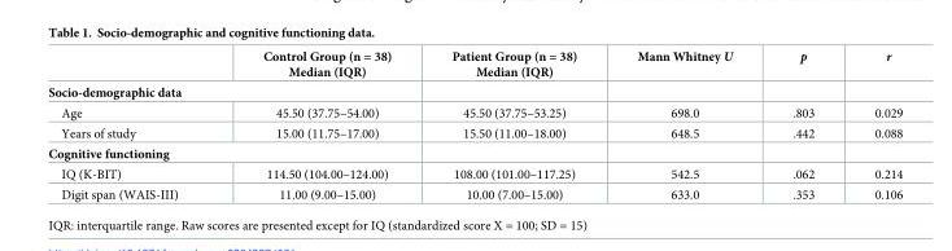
<table><thead><tr><td></td><td>Control Group (n = 38) Median (IQR)</td><td>Patient Group (n = 38) Median (IQR)</td><td>Mann Whitney U</td><td>p</td><td>r</td></tr></thead><tbody><tr><td colspan="6">Socio-demographic data</td></tr><tr><td>Age</td><td>45.50 (37.75–54.00)</td><td>45.50 (37.75–53.25)</td><td>698.0</td><td>.803</td><td>0.029</td></tr><tr><td>Years of study</td><td>15.00 (11.75–17.00)</td><td>15.50 (11.00–18.00)</td><td>648.5</td><td>.442</td><td>0.088</td></tr><tr><td colspan="6">Cognitive functioning</td></tr><tr><td>IQ (K-BIT)</td><td>114.50 (104.00–124.00)</td><td>108.00 (101.00–117.25)</td><td>542.5</td><td>.062</td><td>0.214</td></tr><tr><td>Digit span (WAIS-III)</td><td>11.00 (9.00–15.00)</td><td>10.00 (7.00–15.00)</td><td>633.0</td><td>.353</td><td>0.106</td></tr></tbody></table>